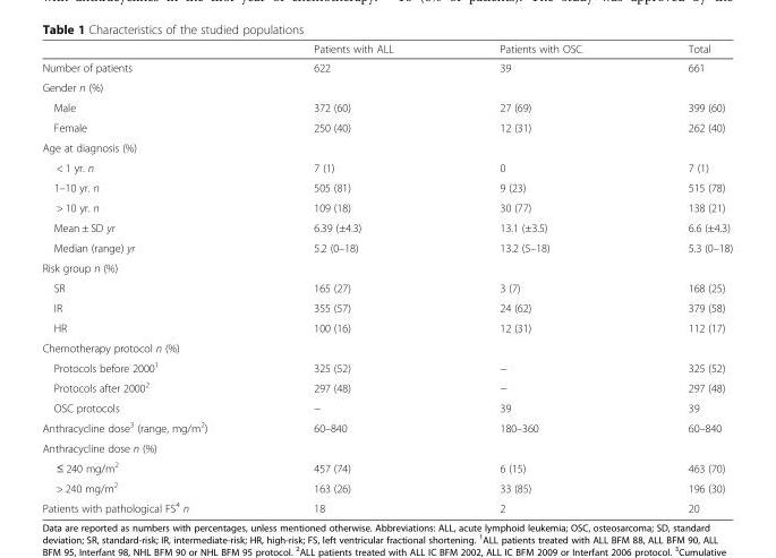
<table><thead><tr><td></td><td>Patients with ALL</td><td>Patients with OSC</td><td>Total</td></tr></thead><tbody><tr><td>Number of patients</td><td>622</td><td>39</td><td>661</td></tr><tr><td colspan="4">Gender n (%)</td></tr><tr><td>Male</td><td>372 (60)</td><td>27 (69)</td><td>399 (60)</td></tr><tr><td>Female</td><td>250 (40)</td><td>12 (31)</td><td>262 (40)</td></tr><tr><td colspan="4">Age at diagnosis (%)</td></tr><tr><td>&lt; 1 yr. n</td><td>7 (1)</td><td>0</td><td>7 (1)</td></tr><tr><td>1–10 yr. n</td><td>505 (81)</td><td>9 (23)</td><td>515 (78)</td></tr><tr><td>&gt; 10 yr. n</td><td>109 (18)</td><td>30 (77)</td><td>138 (21)</td></tr><tr><td>Mean ± SD yr</td><td>6.39 (±4.3)</td><td>13.1 (±3.5)</td><td>6.6 (±4.3)</td></tr><tr><td>Median (range) yr</td><td>5.2 (0–18)</td><td>13.2 (5–18)</td><td>5.3 (0–18)</td></tr><tr><td colspan="4">Risk group n (%)</td></tr><tr><td>SR</td><td>165 (27)</td><td>3 (7)</td><td>168 (25)</td></tr><tr><td>IR</td><td>355 (57)</td><td>24 (62)</td><td>379 (58)</td></tr><tr><td>HR</td><td>100 (16)</td><td>12 (31)</td><td>112 (17)</td></tr><tr><td colspan="4">Chemotherapy protocol n (%)</td></tr><tr><td>Protocols before 2000<sup>1</sup></td><td>325 (52)</td><td>−</td><td>325 (52)</td></tr><tr><td>Protocols after 2000<sup>2</sup></td><td>297 (48)</td><td>−</td><td>297 (48)</td></tr><tr><td>OSC protocols</td><td>−</td><td>39</td><td>39</td></tr><tr><td>Anthracycline dose<sup>3</sup> (range, mg/m<sup>2</sup>)</td><td>60–840</td><td>180–360</td><td>60–840</td></tr><tr><td colspan="4">Anthracycline dose n (%)</td></tr><tr><td>≤ 240 mg/m<sup>2</sup></td><td>457 (74)</td><td>6 (15)</td><td>463 (70)</td></tr><tr><td>&gt; 240 mg/m<sup>2</sup></td><td>163 (26)</td><td>33 (85)</td><td>196 (30)</td></tr><tr><td>Patients with pathological FS<sup>4</sup> n</td><td>18</td><td>2</td><td>20</td></tr></tbody></table>